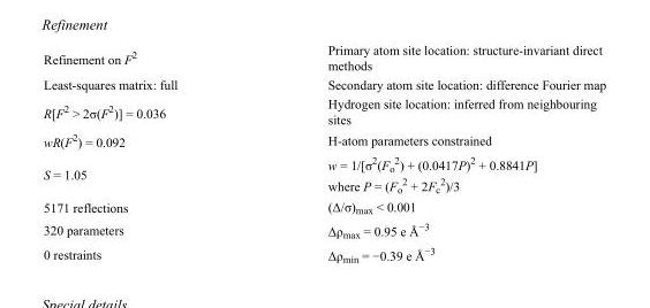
<table><tbody><tr><td>Refinement on F<sup>2</sup></td><td>Primary atom site location: structure-invariant direct methods</td></tr><tr><td>Least-squares matrix: full</td><td>Secondary atom site location: difference Fourier map</td></tr><tr><td>R[F<sup>2</sup> &gt; 2σ(F<sup>2</sup>)] = 0.036</td><td>Hydrogen site location: inferred from neighbouring sites</td></tr><tr><td>wR(F<sup>2</sup>) = 0.092</td><td>H-atom parameters constrained</td></tr><tr><td>S = 1.05</td><td>w = 1/[σ<sup>2</sup>(F<sub>o</sub> <sup>2</sup>) + (0.0417P)<sup>2</sup> + 0.8841P] where P = (F<sub>o</sub> <sup>2</sup> + 2F<sub>c</sub> <sup>2</sup>)/3</td></tr><tr><td>5171 reflections</td><td>(Δ/σ)<sub>max</sub> &lt; 0.001</td></tr><tr><td>320 parameters</td><td>Δρ<sub>max</sub> = 0.95 e Å<sup>−3</sup></td></tr><tr><td>0 restraints</td><td>Δρ<sub>min</sub> = −0.39 e Å<sup>−3</sup></td></tr></tbody></table>